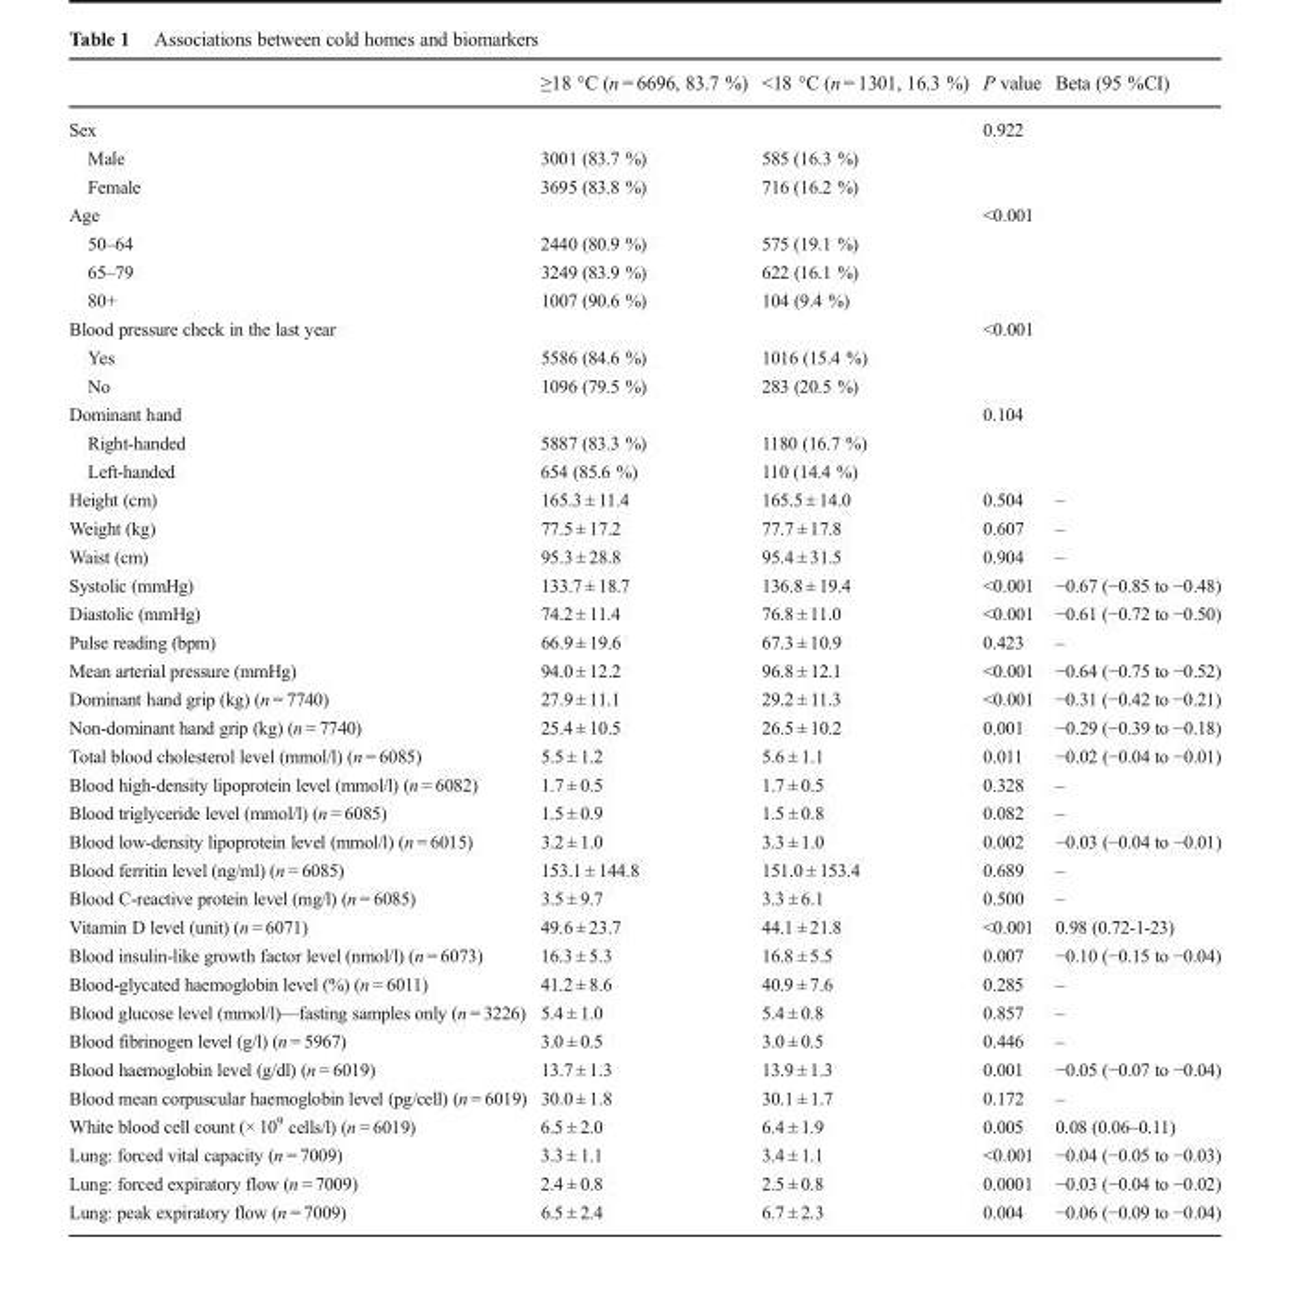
<table><thead><tr><td></td><td>≥18 °C (n = 6696, 83.7 %)</td><td>&lt;18 °C (n = 1301, 16.3 %)</td><td>P value</td><td>Beta (95 %CI)</td></tr></thead><tbody><tr><td>Sex</td><td></td><td></td><td>0.922</td><td></td></tr><tr><td>Male</td><td>3001 (83.7 %)</td><td>585 (16.3 %)</td><td></td><td></td></tr><tr><td>Female</td><td>3695 (83.8 %)</td><td>716 (16.2 %)</td><td></td><td></td></tr><tr><td>Age</td><td></td><td></td><td>&lt;0.001</td><td></td></tr><tr><td>50–64</td><td>2440 (80.9 %)</td><td>575 (19.1 %)</td><td></td><td></td></tr><tr><td>65–79</td><td>3249 (83.9 %)</td><td>622 (16.1 %)</td><td></td><td></td></tr><tr><td>80+</td><td>1007 (90.6 %)</td><td>104 (9.4 %)</td><td></td><td></td></tr><tr><td>Blood pressure check in the last year</td><td></td><td></td><td>&lt;0.001</td><td></td></tr><tr><td>Yes</td><td>5586 (84.6 %)</td><td>1016 (15.4 %)</td><td></td><td></td></tr><tr><td>No</td><td>1096 (79.5 %)</td><td>283 (20.5 %)</td><td></td><td></td></tr><tr><td>Dominant hand</td><td></td><td></td><td>0.104</td><td></td></tr><tr><td>Right-handed</td><td>5887 (83.3 %)</td><td>1180 (16.7 %)</td><td></td><td></td></tr><tr><td>Left-handed</td><td>654 (85.6 %)</td><td>110 (14.4 %)</td><td></td><td></td></tr><tr><td>Height (cm)</td><td>165.3 ± 11.4</td><td>165.5 ± 14.0</td><td>0.504</td><td>–</td></tr><tr><td>Weight (kg)</td><td>77.5 ± 17.2</td><td>77.7 ± 17.8</td><td>0.607</td><td>–</td></tr><tr><td>Waist (cm)</td><td>95.3 ± 28.8</td><td>95.4 ± 31.5</td><td>0.904</td><td>–</td></tr><tr><td>Systolic (mmHg)</td><td>133.7 ± 18.7</td><td>136.8 ± 19.4</td><td>&lt;0.001</td><td>−0.67 (−0.85 to −0.48)</td></tr><tr><td>Diastolic (mmHg)</td><td>74.2 ± 11.4</td><td>76.8 ± 11.0</td><td>&lt;0.001</td><td>−0.61 (−0.72 to −0.50)</td></tr><tr><td>Pulse reading (bpm)</td><td>66.9 ± 19.6</td><td>67.3 ± 10.9</td><td>0.423</td><td>–</td></tr><tr><td>Mean arterial pressure (mmHg)</td><td>94.0 ± 12.2</td><td>96.8 ± 12.1</td><td>&lt;0.001</td><td>−0.64 (−0.75 to −0.52)</td></tr><tr><td>Dominant hand grip (kg) (n = 7740)</td><td>27.9 ± 11.1</td><td>29.2 ± 11.3</td><td>&lt;0.001</td><td>−0.31 (−0.42 to −0.21)</td></tr><tr><td>Non-dominant hand grip (kg) (n = 7740)</td><td>25.4 ± 10.5</td><td>26.5 ± 10.2</td><td>0.001</td><td>−0.29 (−0.39 to −0.18)</td></tr><tr><td>Total blood cholesterol level (mmol/l) (n = 6085)</td><td>5.5 ± 1.2</td><td>5.6 ± 1.1</td><td>0.011</td><td>−0.02 (−0.04 to −0.01)</td></tr><tr><td>Blood high-density lipoprotein level (mmol/l) (n = 6082)</td><td>1.7 ± 0.5</td><td>1.7 ± 0.5</td><td>0.328</td><td>–</td></tr><tr><td>Blood triglyceride level (mmol/l) (n = 6085)</td><td>1.5 ± 0.9</td><td>1.5 ± 0.8</td><td>0.082</td><td>–</td></tr><tr><td>Blood low-density lipoprotein level (mmol/l) (n = 6015)</td><td>3.2 ± 1.0</td><td>3.3 ± 1.0</td><td>0.002</td><td>−0.03 (−0.04 to −0.01)</td></tr><tr><td>Blood ferritin level (ng/ml) (n = 6085)</td><td>153.1 ± 144.8</td><td>151.0 ± 153.4</td><td>0.689</td><td>–</td></tr><tr><td>Blood C-reactive protein level (mg/l) (n = 6085)</td><td>3.5 ± 9.7</td><td>3.3 ± 6.1</td><td>0.500</td><td>–</td></tr><tr><td>Vitamin D level (unit) (n = 6071)</td><td>49.6 ± 23.7</td><td>44.1 ± 21.8</td><td>&lt;0.001</td><td>0.98 (0.72-1-23)</td></tr><tr><td>Blood insulin-like growth factor level (nmol/l) (n = 6073)</td><td>16.3 ± 5.3</td><td>16.8 ± 5.5</td><td>0.007</td><td>−0.10 (−0.15 to −0.04)</td></tr><tr><td>Blood-glycated haemoglobin level (%) (n = 6011)</td><td>41.2 ± 8.6</td><td>40.9 ± 7.6</td><td>0.285</td><td>–</td></tr><tr><td>Blood glucose level (mmol/l)—fasting samples only (n = 3226)</td><td>5.4 ± 1.0</td><td>5.4 ± 0.8</td><td>0.857</td><td>–</td></tr><tr><td>Blood fibrinogen level (g/l) (n = 5967)</td><td>3.0 ± 0.5</td><td>3.0 ± 0.5</td><td>0.446</td><td>–</td></tr><tr><td>Blood haemoglobin level (g/dl) (n = 6019)</td><td>13.7 ± 1.3</td><td>13.9 ± 1.3</td><td>0.001</td><td>−0.05 (−0.07 to −0.04)</td></tr><tr><td>Blood mean corpuscular haemoglobin level (pg/cell) (n = 6019)</td><td>30.0 ± 1.8</td><td>30.1 ± 1.7</td><td>0.172</td><td>–</td></tr><tr><td>White blood cell count (× 10<sup>9</sup> cells/l) (n = 6019)</td><td>6.5 ± 2.0</td><td>6.4 ± 1.9</td><td>0.005</td><td>0.08 (0.06–0.11)</td></tr><tr><td>Lung: forced vital capacity (n = 7009)</td><td>3.3 ± 1.1</td><td>3.4 ± 1.1</td><td>&lt;0.001</td><td>−0.04 (−0.05 to −0.03)</td></tr><tr><td>Lung: forced expiratory flow (n = 7009)</td><td>2.4 ± 0.8</td><td>2.5 ± 0.8</td><td>0.0001</td><td>−0.03 (−0.04 to −0.02)</td></tr><tr><td>Lung: peak expiratory flow (n = 7009)</td><td>6.5 ± 2.4</td><td>6.7 ± 2.3</td><td>0.004</td><td>−0.06 (−0.09 to −0.04)</td></tr></tbody></table>